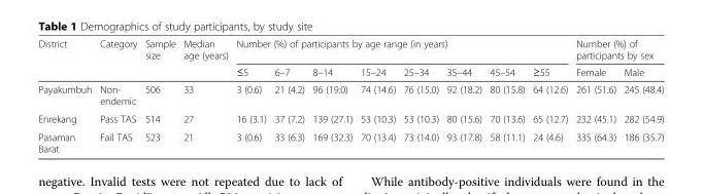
<table><thead><tr><td rowspan="2">District</td><td rowspan="2">Category</td><td rowspan="2">Sample size</td><td rowspan="2">Median age (years)</td><td colspan="8">Number (%) of participants by age range (in years)</td><td colspan="2">Number (%) of participants by sex</td></tr><tr><td>≤5</td><td>6–7</td><td>8–14</td><td>15–24</td><td>25–34</td><td>35–44</td><td>45–54</td><td>≥55</td><td>Female</td><td>Male</td></tr></thead><tbody><tr><td>Payakumbuh</td><td>Non- endemic</td><td>506</td><td>33</td><td>3 (0.6)</td><td>21 (4.2)</td><td>96 (19.0)</td><td>74 (14.6)</td><td>76 (15.0)</td><td>92 (18.2)</td><td>80 (15.8)</td><td>64 (12.6)</td><td>261 (51.6)</td><td>245 (48.4)</td></tr><tr><td>Enrekang</td><td>Pass TAS</td><td>514</td><td>27</td><td>16 (3.1)</td><td>37 (7.2)</td><td>139 (27.1)</td><td>53 (10.3)</td><td>53 (10.3)</td><td>80 (15.6)</td><td>70 (13.6)</td><td>65 (12.7)</td><td>232 (45.1)</td><td>282 (54.9)</td></tr><tr><td>Pasaman Barat</td><td>Fail TAS</td><td>523</td><td>21</td><td>3 (0.6)</td><td>33 (6.3)</td><td>169 (32.3)</td><td>70 (13.4)</td><td>73 (14.0)</td><td>93 (17.8)</td><td>58 (11.1)</td><td>24 (4.6)</td><td>335 (64.3)</td><td>186 (35.7)</td></tr></tbody></table>